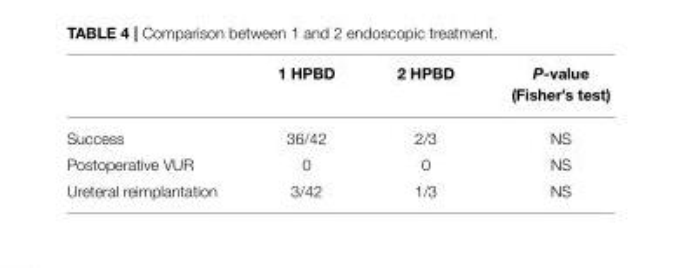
<table><thead><tr><td></td><td>1 HPBD</td><td>2 HPBD</td><td>P-value (Fisher’s test)</td></tr></thead><tbody><tr><td>Success</td><td>36/42</td><td>2/3</td><td>NS</td></tr><tr><td>Postoperative VUR</td><td>0</td><td>0</td><td>NS</td></tr><tr><td>Ureteral reimplantation</td><td>3/42</td><td>1/3</td><td>NS</td></tr></tbody></table>